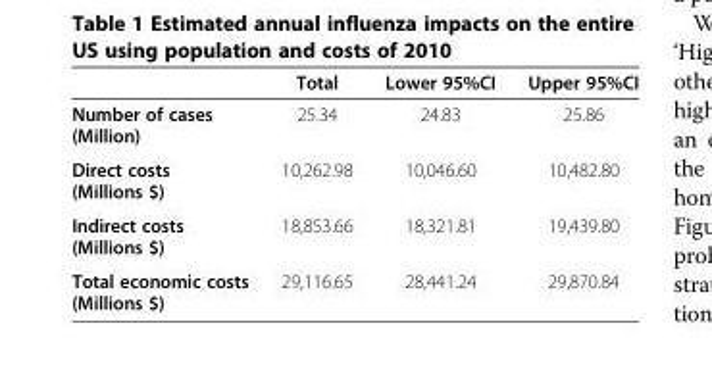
<table><thead><tr><td></td><td>Total</td><td>Lower 95%CI</td><td>Upper 95%CI</td></tr></thead><tbody><tr><td>Number of cases (Million)</td><td>25.34</td><td>24.83</td><td>25.86</td></tr><tr><td>Direct costs (Millions $)</td><td>10,262.98</td><td>10,046.60</td><td>10,482.80</td></tr><tr><td>Indirect costs (Millions $)</td><td>18,853.66</td><td>18,321.81</td><td>19,439.80</td></tr><tr><td>Total economic costs (Millions $)</td><td>29,116.65</td><td>28,441.24</td><td>29,870.84</td></tr></tbody></table>